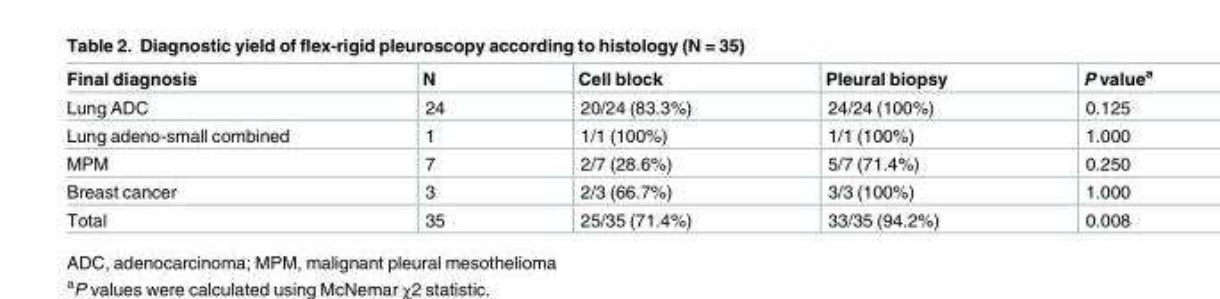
<table><thead><tr><td>Final diagnosis</td><td>N</td><td>Cell block</td><td>Pleural biopsy</td><td>P value<sup>a</sup></td></tr></thead><tbody><tr><td>Lung ADC</td><td>24</td><td>20/24 (83.3%)</td><td>24/24 (100%)</td><td>0.125</td></tr><tr><td>Lung adeno-small combined</td><td>1</td><td>1/1 (100%)</td><td>1/1 (100%)</td><td>1.000</td></tr><tr><td>MPM</td><td>7</td><td>2/7 (28.6%)</td><td>5/7 (71.4%)</td><td>0.250</td></tr><tr><td>Breast cancer</td><td>3</td><td>2/3 (66.7%)</td><td>3/3 (100%)</td><td>1.000</td></tr><tr><td>Total</td><td>35</td><td>25/35 (71.4%)</td><td>33/35 (94.2%)</td><td>0.008</td></tr></tbody></table>